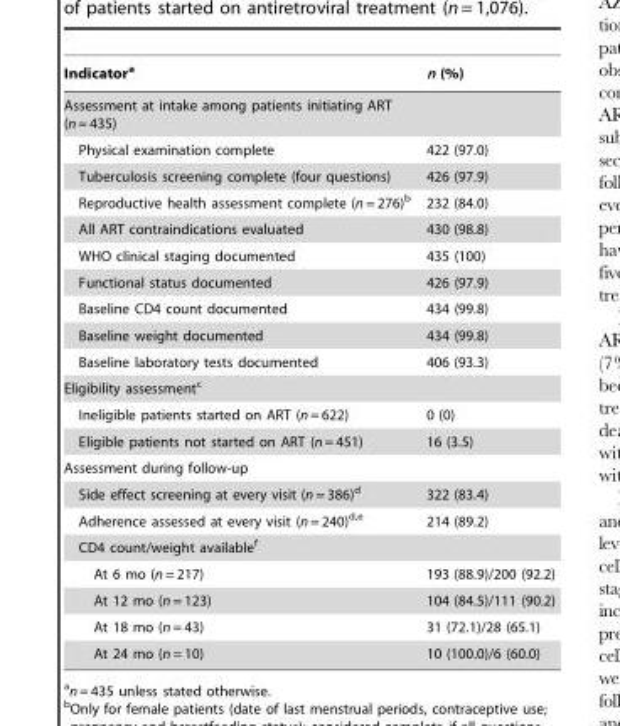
<table><thead><tr><td>Indicator<sup>a</sup></td><td>n (%)</td></tr></thead><tbody><tr><td colspan="2">Assessment at intake among patients initiating ART (n = 435)</td></tr><tr><td>Physical examination complete</td><td>422 (97.0)</td></tr><tr><td>Tuberculosis screening complete (four questions)</td><td>426 (97.9)</td></tr><tr><td>Reproductive health assessment complete (n = 276)<sup>b</sup></td><td>232 (84.0)</td></tr><tr><td>All ART contraindications evaluated</td><td>430 (98.8)</td></tr><tr><td>WHO clinical staging documented</td><td>435 (100)</td></tr><tr><td>Functional status documented</td><td>426 (97.9)</td></tr><tr><td>Baseline CD4 count documented</td><td>434 (99.8)</td></tr><tr><td>Baseline weight documented</td><td>434 (99.8)</td></tr><tr><td>Baseline laboratory tests documented</td><td>406 (93.3)</td></tr><tr><td colspan="2">Eligibility assessment<sup>c</sup></td></tr><tr><td>Ineligible patients started on ART (n = 622)</td><td>0 (0)</td></tr><tr><td>Eligible patients not started on ART (n = 451)</td><td>16 (3.5)</td></tr><tr><td colspan="2">Assessment during follow-up</td></tr><tr><td>Side effect screening at every visit (n = 386)<sup>d</sup></td><td>322 (83.4)</td></tr><tr><td>Adherence assessed at every visit (n = 240)<sup>d,</sup>e</td><td>214 (89.2)</td></tr><tr><td colspan="2">CD4 count/weight available<sup>f</sup></td></tr><tr><td>At 6 mo (n = 217)</td><td>193 (88.9)/200 (92.2)</td></tr><tr><td>At 12 mo (n = 123)</td><td>104 (84.5)/111 (90.2)</td></tr><tr><td>At 18 mo (n = 43)</td><td>31 (72.1)/28 (65.1)</td></tr><tr><td>At 24 mo (n = 10)</td><td>10 (100.0)/6 (60.0)</td></tr></tbody></table>